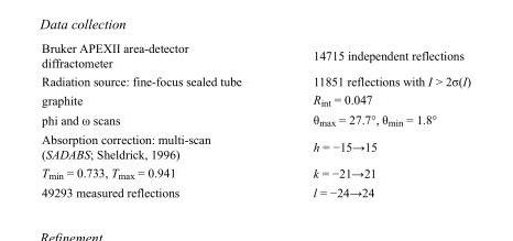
<table><tbody><tr><td>Bruker APEXII area-detector diffractometer</td><td>14715 independent reflections</td></tr><tr><td>Radiation source: fine-focus sealed tube</td><td>11851 reflections with I &gt; 2σ(I)</td></tr><tr><td>graphite</td><td>R<sub>int</sub> = 0.047</td></tr><tr><td>phi and ω scans</td><td>θ<sub>max</sub> = 27.7°, θ<sub>min</sub> = 1.8°</td></tr><tr><td>Absorption correction: multi-scan (SADABS; Sheldrick, 1996)</td><td>h = −15→15</td></tr><tr><td>T<sub>min</sub> = 0.733, T<sub>max</sub> = 0.941</td><td>k = −21→21</td></tr><tr><td>49293 measured reflections</td><td>l = −24→24</td></tr></tbody></table>